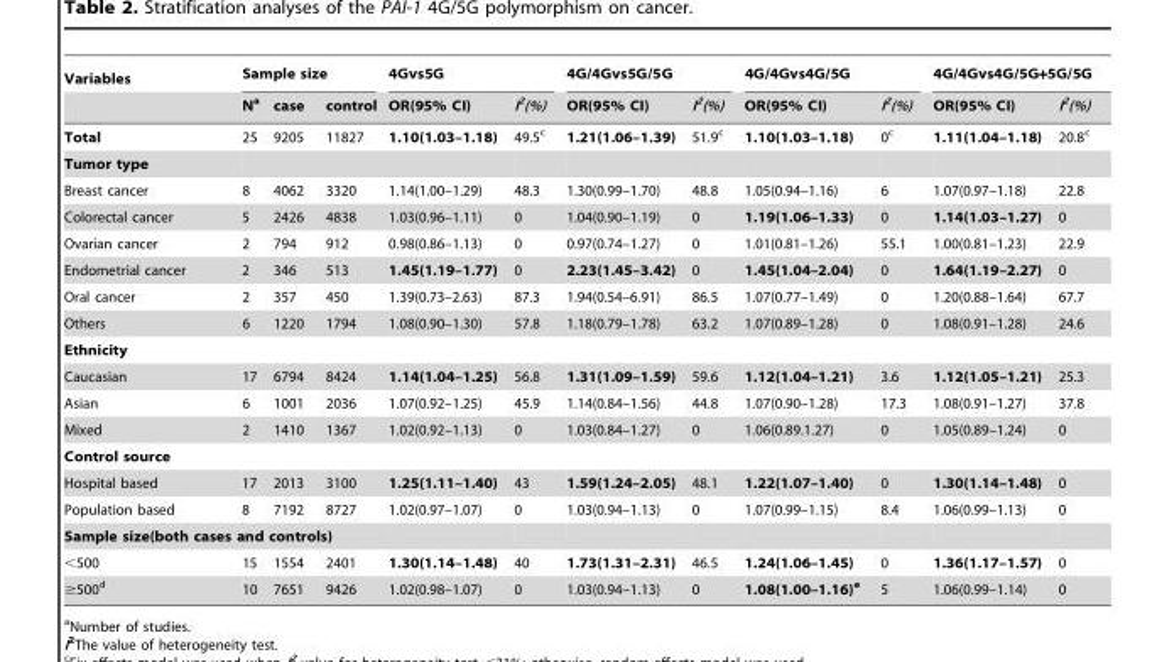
<table><thead><tr><td rowspan="2">Variables</td><td colspan="3">Sample size</td><td colspan="2">4Gvs5G</td><td colspan="2">4G/4Gvs5G/5G</td><td colspan="2">4G/4Gvs4G/5G</td><td colspan="2">4G/4Gvs4G/5G+5G/5G</td></tr><tr><td>N<sup>a</sup></td><td>case</td><td>control</td><td>OR(95% CI)</td><td>I<sup>2</sup>(%)</td><td>OR(95% CI)</td><td>I<sup>2</sup>(%)</td><td>OR(95% CI)</td><td>I<sup>2</sup>(%)</td><td>OR(95% CI)</td><td>I<sup>2</sup>(%)</td></tr></thead><tbody><tr><td>Total</td><td>25</td><td>9205</td><td>11827</td><td>1.10(1.03–1.18)</td><td>49.5<sup>c</sup></td><td>1.21(1.06–1.39)</td><td>51.9<sup>c</sup></td><td>1.10(1.03–1.18)</td><td>0<sup>c</sup></td><td>1.11(1.04–1.18)</td><td>20.8<sup>c</sup></td></tr><tr><td colspan="12">Tumor type</td></tr><tr><td>Breast cancer</td><td>8</td><td>4062</td><td>3320</td><td>1.14(1.00–1.29)</td><td>48.3</td><td>1.30(0.99–1.70)</td><td>48.8</td><td>1.05(0.94–1.16)</td><td>6</td><td>1.07(0.97–1.18)</td><td>22.8</td></tr><tr><td>Colorectal cancer</td><td>5</td><td>2426</td><td>4838</td><td>1.03(0.96–1.11)</td><td>0</td><td>1.04(0.90–1.19)</td><td>0</td><td>1.19(1.06–1.33)</td><td>0</td><td>1.14(1.03–1.27)</td><td>0</td></tr><tr><td>Ovarian cancer</td><td>2</td><td>794</td><td>912</td><td>0.98(0.86–1.13)</td><td>0</td><td>0.97(0.74–1.27)</td><td>0</td><td>1.01(0.81–1.26)</td><td>55.1</td><td>1.00(0.81–1.23)</td><td>22.9</td></tr><tr><td>Endometrial cancer</td><td>2</td><td>346</td><td>513</td><td>1.45(1.19–1.77)</td><td>0</td><td>2.23(1.45–3.42)</td><td>0</td><td>1.45(1.04–2.04)</td><td>0</td><td>1.64(1.19–2.27)</td><td>0</td></tr><tr><td>Oral cancer</td><td>2</td><td>357</td><td>450</td><td>1.39(0.73–2.63)</td><td>87.3</td><td>1.94(0.54–6.91)</td><td>86.5</td><td>1.07(0.77–1.49)</td><td>0</td><td>1.20(0.88–1.64)</td><td>67.7</td></tr><tr><td>Others</td><td>6</td><td>1220</td><td>1794</td><td>1.08(0.90–1.30)</td><td>57.8</td><td>1.18(0.79–1.78)</td><td>63.2</td><td>1.07(0.89–1.28)</td><td>0</td><td>1.08(0.91–1.28)</td><td>24.6</td></tr><tr><td colspan="12">Ethnicity</td></tr><tr><td>Caucasian</td><td>17</td><td>6794</td><td>8424</td><td>1.14(1.04–1.25)</td><td>56.8</td><td>1.31(1.09–1.59)</td><td>59.6</td><td>1.12(1.04–1.21)</td><td>3.6</td><td>1.12(1.05–1.21)</td><td>25.3</td></tr><tr><td>Asian</td><td>6</td><td>1001</td><td>2036</td><td>1.07(0.92–1.25)</td><td>45.9</td><td>1.14(0.84–1.56)</td><td>44.8</td><td>1.07(0.90–1.28)</td><td>17.3</td><td>1.08(0.91–1.27)</td><td>37.8</td></tr><tr><td>Mixed</td><td>2</td><td>1410</td><td>1367</td><td>1.02(0.92–1.13)</td><td>0</td><td>1.03(0.84–1.27)</td><td>0</td><td>1.06(0.89.1.27)</td><td>0</td><td>1.05(0.89–1.24)</td><td>0</td></tr><tr><td colspan="12">Control source</td></tr><tr><td>Hospital based</td><td>17</td><td>2013</td><td>3100</td><td>1.25(1.11–1.40)</td><td>43</td><td>1.59(1.24–2.05)</td><td>48.1</td><td>1.22(1.07–1.40)</td><td>0</td><td>1.30(1.14–1.48)</td><td>0</td></tr><tr><td>Population based</td><td>8</td><td>7192</td><td>8727</td><td>1.02(0.97–1.07)</td><td>0</td><td>1.03(0.94–1.13)</td><td>0</td><td>1.07(0.99–1.15)</td><td>8.4</td><td>1.06(0.99–1.13)</td><td>0</td></tr><tr><td colspan="12">Sample size(both cases and controls)</td></tr><tr><td>&lt;500</td><td>15</td><td>1554</td><td>2401</td><td>1.30(1.14–1.48)</td><td>40</td><td>1.73(1.31–2.31)</td><td>46.5</td><td>1.24(1.06–1.45)</td><td>0</td><td>1.36(1.17–1.57)</td><td>0</td></tr><tr><td>≥500<sup>d</sup></td><td>10</td><td>7651</td><td>9426</td><td>1.02(0.98–1.07)</td><td>0</td><td>1.03(0.94–1.13)</td><td>0</td><td>1.08(1.00–1.16)e</td><td>5</td><td>1.06(0.99–1.14)</td><td>0</td></tr></tbody></table>